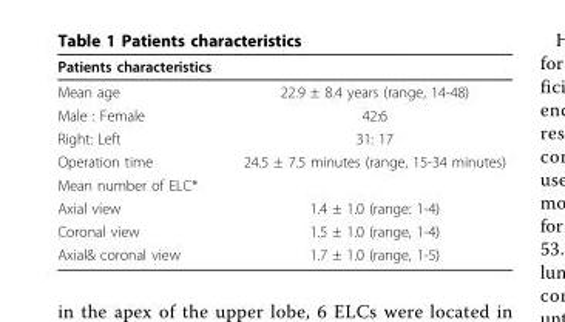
<table><thead><tr><td>Patients characteristics</td><td></td></tr></thead><tbody><tr><td>Mean age</td><td>22.9 ± 8.4 years (range, 14-48)</td></tr><tr><td>Male : Female</td><td>42:6</td></tr><tr><td>Right: Left</td><td>31: 17</td></tr><tr><td>Operation time</td><td>24.5 ± 7.5 minutes (range, 15-34 minutes)</td></tr><tr><td colspan="2">Mean number of ELC*</td></tr><tr><td>Axial view</td><td>1.4 ± 1.0 (range: 1-4)</td></tr><tr><td>Coronal view</td><td>1.5 ± 1.0 (range, 1-4)</td></tr><tr><td>Axial&amp; coronal view</td><td>1.7 ± 1.0 (range, 1-5)</td></tr></tbody></table>